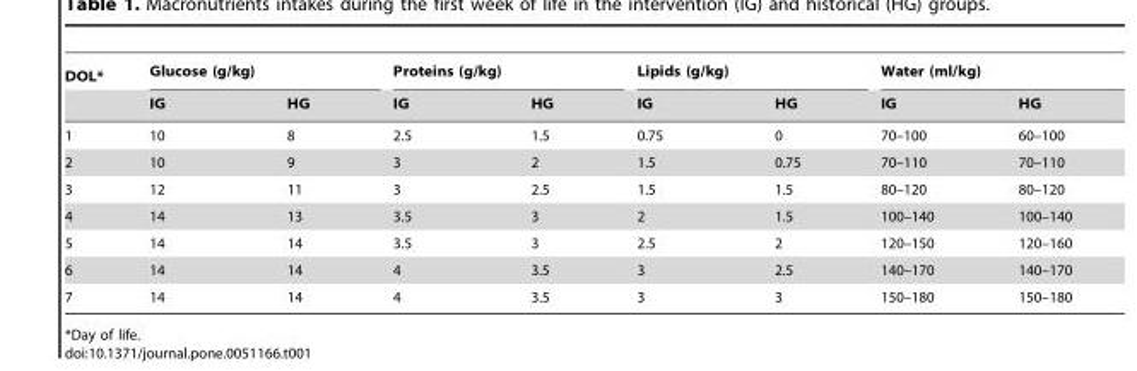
<table><thead><tr><td rowspan="2">DOL*</td><td colspan="2">Glucose (g/kg)</td><td colspan="2">Proteins (g/kg)</td><td colspan="2">Lipids (g/kg)</td><td colspan="2">Water (ml/kg)</td></tr><tr><td>IG</td><td>HG</td><td>IG</td><td>HG</td><td>IG</td><td>HG</td><td>IG</td><td>HG</td></tr></thead><tbody><tr><td>1</td><td>10</td><td>8</td><td>2.5</td><td>1.5</td><td>0.75</td><td>0</td><td>70–100</td><td>60–100</td></tr><tr><td>2</td><td>10</td><td>9</td><td>3</td><td>2</td><td>1.5</td><td>0.75</td><td>70–110</td><td>70–110</td></tr><tr><td>3</td><td>12</td><td>11</td><td>3</td><td>2.5</td><td>1.5</td><td>1.5</td><td>80–120</td><td>80–120</td></tr><tr><td>4</td><td>14</td><td>13</td><td>3.5</td><td>3</td><td>2</td><td>1.5</td><td>100–140</td><td>100–140</td></tr><tr><td>5</td><td>14</td><td>14</td><td>3.5</td><td>3</td><td>2.5</td><td>2</td><td>120–150</td><td>120–160</td></tr><tr><td>6</td><td>14</td><td>14</td><td>4</td><td>3.5</td><td>3</td><td>2.5</td><td>140–170</td><td>140–170</td></tr><tr><td>7</td><td>14</td><td>14</td><td>4</td><td>3.5</td><td>3</td><td>3</td><td>150–180</td><td>150–180</td></tr></tbody></table>